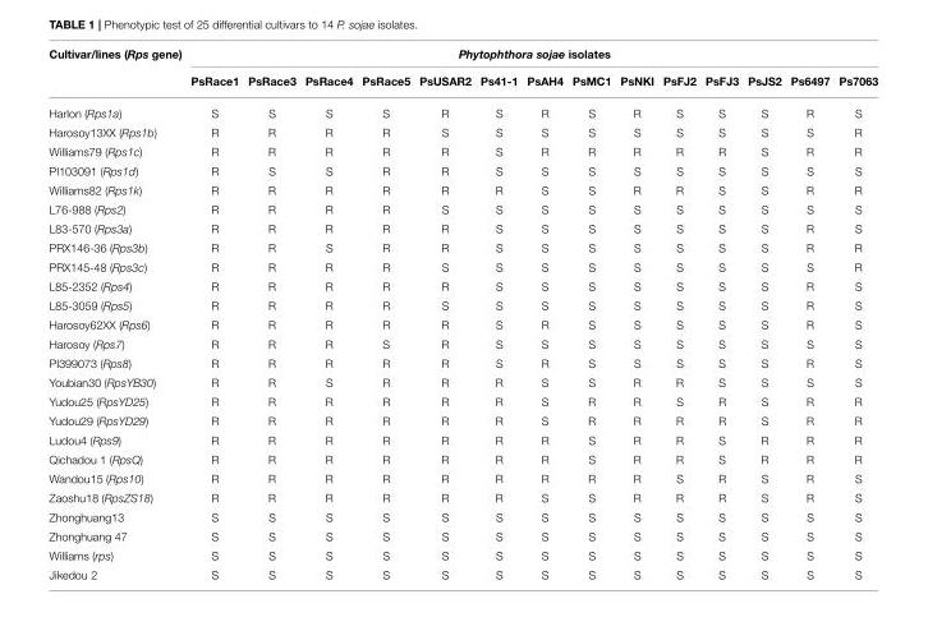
<table><thead><tr><td rowspan="2">Cultivar/lines (Rps gene)</td><td colspan="14">Phytophthora sojae isolates</td></tr><tr><td>PsRace1</td><td>PsRace3</td><td>PsRace4</td><td>PsRace5</td><td>PsUSAR2</td><td>Ps41-1</td><td>PsAH4</td><td>PsMC1</td><td>PsNKI</td><td>PsFJ2</td><td>PsFJ3</td><td>PsJS2</td><td>Ps6497</td><td>Ps7063</td></tr></thead><tbody><tr><td>Harlon (Rps1a)</td><td>S</td><td>S</td><td>S</td><td>S</td><td>R</td><td>S</td><td>R</td><td>S</td><td>R</td><td>S</td><td>S</td><td>S</td><td>R</td><td>S</td></tr><tr><td>Harosoy13XX (Rps1b)</td><td>R</td><td>R</td><td>R</td><td>R</td><td>S</td><td>S</td><td>S</td><td>S</td><td>S</td><td>S</td><td>S</td><td>S</td><td>S</td><td>R</td></tr><tr><td>Williams79 (Rps1c)</td><td>R</td><td>R</td><td>R</td><td>R</td><td>R</td><td>S</td><td>R</td><td>R</td><td>R</td><td>R</td><td>R</td><td>S</td><td>R</td><td>R</td></tr><tr><td>PI103091 (Rps1d)</td><td>R</td><td>S</td><td>S</td><td>R</td><td>R</td><td>S</td><td>S</td><td>S</td><td>S</td><td>S</td><td>S</td><td>S</td><td>S</td><td>S</td></tr><tr><td>Williams82 (Rps1k)</td><td>R</td><td>R</td><td>R</td><td>R</td><td>R</td><td>R</td><td>S</td><td>S</td><td>R</td><td>R</td><td>S</td><td>S</td><td>R</td><td>R</td></tr><tr><td>L76-988 (Rps2)</td><td>R</td><td>R</td><td>R</td><td>R</td><td>S</td><td>S</td><td>S</td><td>S</td><td>S</td><td>S</td><td>S</td><td>S</td><td>S</td><td>S</td></tr><tr><td>L83-570 (Rps3a)</td><td>R</td><td>R</td><td>R</td><td>R</td><td>R</td><td>S</td><td>S</td><td>S</td><td>S</td><td>S</td><td>S</td><td>S</td><td>R</td><td>S</td></tr><tr><td>PRX146-36 (Rps3b)</td><td>R</td><td>R</td><td>S</td><td>R</td><td>R</td><td>S</td><td>S</td><td>S</td><td>S</td><td>S</td><td>S</td><td>S</td><td>R</td><td>R</td></tr><tr><td>PRX145-48 (Rps3c)</td><td>R</td><td>R</td><td>R</td><td>R</td><td>S</td><td>S</td><td>S</td><td>S</td><td>S</td><td>S</td><td>S</td><td>S</td><td>S</td><td>R</td></tr><tr><td>L85-2352 (Rps4)</td><td>R</td><td>R</td><td>R</td><td>R</td><td>R</td><td>S</td><td>S</td><td>S</td><td>S</td><td>S</td><td>S</td><td>S</td><td>R</td><td>S</td></tr><tr><td>L85-3059 (Rps5)</td><td>R</td><td>R</td><td>R</td><td>R</td><td>S</td><td>S</td><td>S</td><td>S</td><td>S</td><td>S</td><td>S</td><td>S</td><td>R</td><td>S</td></tr><tr><td>Harosoy62XX (Rps6)</td><td>R</td><td>R</td><td>R</td><td>R</td><td>R</td><td>S</td><td>R</td><td>S</td><td>S</td><td>S</td><td>S</td><td>S</td><td>R</td><td>S</td></tr><tr><td>Harosoy (Rps7)</td><td>R</td><td>R</td><td>R</td><td>S</td><td>R</td><td>S</td><td>S</td><td>S</td><td>S</td><td>S</td><td>S</td><td>S</td><td>S</td><td>S</td></tr><tr><td>PI399073 (Rps8)</td><td>R</td><td>R</td><td>R</td><td>R</td><td>R</td><td>S</td><td>R</td><td>S</td><td>S</td><td>S</td><td>S</td><td>S</td><td>R</td><td>S</td></tr><tr><td>Youbian30 (RpsYB30)</td><td>R</td><td>R</td><td>S</td><td>R</td><td>R</td><td>R</td><td>S</td><td>S</td><td>R</td><td>R</td><td>S</td><td>S</td><td>S</td><td>S</td></tr><tr><td>Yudou25 (RpsYD25)</td><td>R</td><td>R</td><td>R</td><td>R</td><td>R</td><td>R</td><td>S</td><td>R</td><td>R</td><td>S</td><td>R</td><td>S</td><td>R</td><td>R</td></tr><tr><td>Yudou29 (RpsYD29)</td><td>R</td><td>R</td><td>R</td><td>R</td><td>R</td><td>R</td><td>S</td><td>R</td><td>R</td><td>R</td><td>R</td><td>S</td><td>R</td><td>R</td></tr><tr><td>Ludou4 (Rps9)</td><td>R</td><td>R</td><td>R</td><td>R</td><td>R</td><td>R</td><td>R</td><td>S</td><td>R</td><td>R</td><td>S</td><td>R</td><td>R</td><td>R</td></tr><tr><td>Qichadou 1 (RpsQ)</td><td>R</td><td>R</td><td>R</td><td>R</td><td>R</td><td>R</td><td>R</td><td>S</td><td>R</td><td>R</td><td>S</td><td>R</td><td>R</td><td>R</td></tr><tr><td>Wandou15 (Rps10)</td><td>R</td><td>R</td><td>R</td><td>R</td><td>R</td><td>R</td><td>R</td><td>R</td><td>R</td><td>S</td><td>R</td><td>S</td><td>R</td><td>S</td></tr><tr><td>Zaoshu18 (RpsZS18)</td><td>R</td><td>R</td><td>R</td><td>R</td><td>R</td><td>R</td><td>S</td><td>S</td><td>R</td><td>R</td><td>R</td><td>S</td><td>R</td><td>S</td></tr><tr><td>Zhonghuang13</td><td>S</td><td>S</td><td>S</td><td>S</td><td>S</td><td>S</td><td>S</td><td>S</td><td>S</td><td>S</td><td>S</td><td>S</td><td>S</td><td>S</td></tr><tr><td>Zhonghuang 47</td><td>S</td><td>S</td><td>S</td><td>S</td><td>S</td><td>S</td><td>S</td><td>S</td><td>S</td><td>S</td><td>S</td><td>S</td><td>S</td><td>S</td></tr><tr><td>Williams (rps)</td><td>S</td><td>S</td><td>S</td><td>S</td><td>S</td><td>S</td><td>S</td><td>S</td><td>S</td><td>S</td><td>S</td><td>S</td><td>S</td><td>S</td></tr><tr><td>Jikedou 2</td><td>S</td><td>S</td><td>S</td><td>S</td><td>S</td><td>S</td><td>S</td><td>S</td><td>S</td><td>S</td><td>S</td><td>S</td><td>S</td><td>S</td></tr></tbody></table>